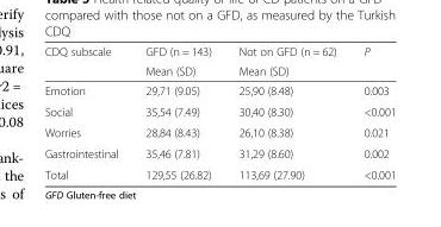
<table><thead><tr><td rowspan="2">CDQ subscale</td><td rowspan="2">GFD (n = 143) Mean (SD)</td><td rowspan="2">Not on GFD (n = 62) Mean (SD)</td><td rowspan="2">P</td></tr><tr></tr></thead><tbody><tr><td>Emotion</td><td>29,71 (9.05)</td><td>25,90 (8.48)</td><td>0.003</td></tr><tr><td>Social</td><td>35,54 (7.49)</td><td>30,40 (8.30)</td><td>&lt;0.001</td></tr><tr><td>Worries</td><td>28,84 (8.43)</td><td>26,10 (8.38)</td><td>0.021</td></tr><tr><td>Gastrointestinal</td><td>35,46 (7.81)</td><td>31,29 (8.60)</td><td>0.002</td></tr><tr><td>Total</td><td>129,55 (26.82)</td><td>113,69 (27.90)</td><td>&lt;0.001</td></tr></tbody></table>